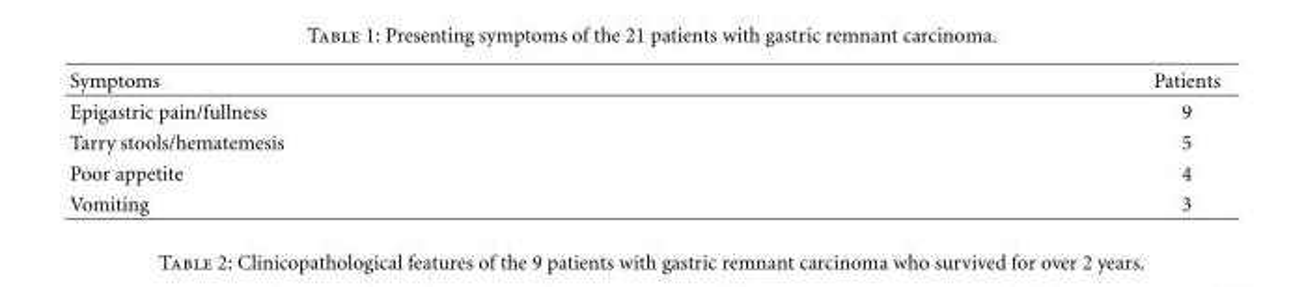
<table><thead><tr><td>Symptoms</td><td>Patients</td></tr></thead><tbody><tr><td>Epigastric pain/fullness</td><td>9</td></tr><tr><td>Tarry stools/hematemesis</td><td>5</td></tr><tr><td>Poor appetite</td><td>4</td></tr><tr><td>Vomiting</td><td>3</td></tr></tbody></table>